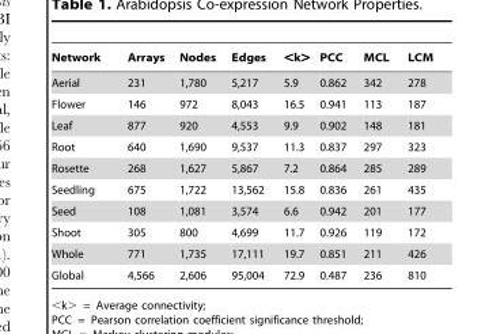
<table><thead><tr><td>Network</td><td>Arrays</td><td>Nodes</td><td>Edges</td><td>&lt;k&gt;</td><td>PCC</td><td>MCL</td><td>LCM</td></tr></thead><tbody><tr><td>Aerial</td><td>231</td><td>1,780</td><td>5,217</td><td>5.9</td><td>0.862</td><td>342</td><td>278</td></tr><tr><td>Flower</td><td>146</td><td>972</td><td>8,043</td><td>16.5</td><td>0.941</td><td>113</td><td>187</td></tr><tr><td>Leaf</td><td>877</td><td>920</td><td>4,553</td><td>9.9</td><td>0.902</td><td>148</td><td>181</td></tr><tr><td>Root</td><td>640</td><td>1,690</td><td>9,537</td><td>11.3</td><td>0.837</td><td>297</td><td>323</td></tr><tr><td>Rosette</td><td>268</td><td>1,627</td><td>5,867</td><td>7.2</td><td>0.864</td><td>285</td><td>289</td></tr><tr><td>Seedling</td><td>675</td><td>1,722</td><td>13,562</td><td>15.8</td><td>0.836</td><td>261</td><td>435</td></tr><tr><td>Seed</td><td>108</td><td>1,081</td><td>3,574</td><td>6.6</td><td>0.942</td><td>201</td><td>177</td></tr><tr><td>Shoot</td><td>305</td><td>800</td><td>4,699</td><td>11.7</td><td>0.926</td><td>119</td><td>172</td></tr><tr><td>Whole</td><td>771</td><td>1,735</td><td>17,111</td><td>19.7</td><td>0.851</td><td>211</td><td>426</td></tr><tr><td>Global</td><td>4,566</td><td>2,606</td><td>95,004</td><td>72.9</td><td>0.487</td><td>236</td><td>810</td></tr></tbody></table>